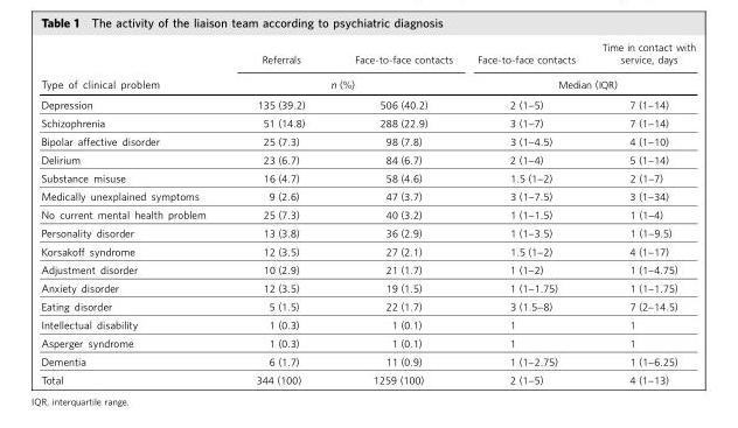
<table><thead><tr><td rowspan="2">Type of clinical problem</td><td>Referrals</td><td>Face-to-face contacts</td><td>Face-to-face contacts</td><td>Time in contact with service, days</td></tr><tr><td colspan="2">n (%)</td><td colspan="2">Median (IQR)</td></tr></thead><tbody><tr><td>Depression</td><td>135 (39.2)</td><td>506 (40.2)</td><td>2 (1-5)</td><td>7 (1-14)</td></tr><tr><td>Schizophrenia</td><td>51 (14.8)</td><td>288 (22.9)</td><td>3 (1-7)</td><td>7 (1-14)</td></tr><tr><td>Bipolar affective disorder</td><td>25 (7.3)</td><td>98 (7.8)</td><td>3 (1-4.5)</td><td>4 (1-10)</td></tr><tr><td>Delirium</td><td>23 (6.7)</td><td>84 (6.7)</td><td>2 (1-4)</td><td>5 (1-14)</td></tr><tr><td>Substance misuse</td><td>16 (4.7)</td><td>58 (4.6)</td><td>1.5 (1-2)</td><td>2 (1-7)</td></tr><tr><td>Medically unexplained symptoms</td><td>9 (2.6)</td><td>47 (3.7)</td><td>3 (1-7.5)</td><td>3 (1-34)</td></tr><tr><td>No current mental health problem</td><td>25 (7.3)</td><td>40 (3.2)</td><td>1 (1-1.5)</td><td>1 (1-4)</td></tr><tr><td>Personality disorder</td><td>13 (3.8)</td><td>36 (2.9)</td><td>1 (1-3.5)</td><td>1 (1-9.5)</td></tr><tr><td>Korsakoff syndrome</td><td>12 (3.5)</td><td>27 (2.1)</td><td>1.5 (1-2)</td><td>4 (1-17)</td></tr><tr><td>Adjustment disorder</td><td>10 (2.9)</td><td>21 (1.7)</td><td>1 (1-2)</td><td>1 (1-4.75)</td></tr><tr><td>Anxiety disorder</td><td>12 (3.5)</td><td>19 (1.5)</td><td>1 (1-1.75)</td><td>1 (1-1.75)</td></tr><tr><td>Eating disorder</td><td>5 (1.5)</td><td>22 (1.7)</td><td>3 (1.5-8)</td><td>7 (2-14.5)</td></tr><tr><td>Intellectual disability</td><td>1 (0.3)</td><td>1 (0.1)</td><td>1</td><td>1</td></tr><tr><td>Asperger syndrome</td><td>1 (0.3)</td><td>1 (0.1)</td><td>1</td><td>1</td></tr><tr><td>Dementia</td><td>6 (1.7)</td><td>11 (0.9)</td><td>1 (1-2.75)</td><td>1 (1-6.25)</td></tr><tr><td>Total</td><td>344 (100)</td><td>1259 (100)</td><td>2 (1-5)</td><td>4 (1-13)</td></tr></tbody></table>